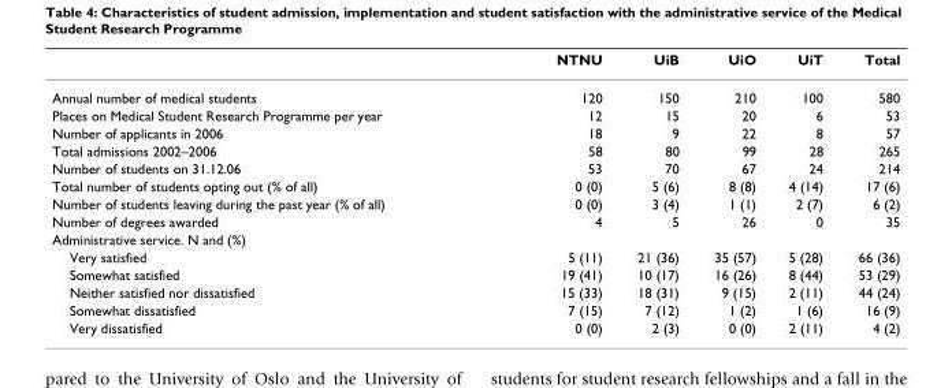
<table><thead><tr><td></td><td>NTNU</td><td>UiB</td><td>UiO</td><td>UiT</td><td>Total</td></tr></thead><tbody><tr><td>Annual number of medical students</td><td>120</td><td>150</td><td>210</td><td>100</td><td>580</td></tr><tr><td>Places on Medical Student Research Programme per year</td><td>12</td><td>15</td><td>20</td><td>6</td><td>53</td></tr><tr><td>Number of applicants in 2006</td><td>18</td><td>9</td><td>22</td><td>8</td><td>57</td></tr><tr><td>Total admissions 2002–2006</td><td>58</td><td>80</td><td>99</td><td>28</td><td>265</td></tr><tr><td>Number of students on 31.12.06</td><td>53</td><td>70</td><td>67</td><td>24</td><td>214</td></tr><tr><td>Total number of students opting out (% of all)</td><td>0 (0)</td><td>5 (6)</td><td>8 (8)</td><td>4 (14)</td><td>17 (6)</td></tr><tr><td>Number of students leaving during the past year (% of all)</td><td>0 (0)</td><td>3 (4)</td><td>1 (1)</td><td>2 (7)</td><td>6 (2)</td></tr><tr><td>Number of degrees awarded</td><td>4</td><td>5</td><td>26</td><td>0</td><td>35</td></tr><tr><td colspan="6">Administrative service. N and (%)</td></tr><tr><td>Very satisfied</td><td>5 (11)</td><td>21 (36)</td><td>35 (57)</td><td>5 (28)</td><td>66 (36)</td></tr><tr><td>Somewhat satisfied</td><td>19 (41)</td><td>10 (17)</td><td>16 (26)</td><td>8 (44)</td><td>53 (29)</td></tr><tr><td>Neither satisfied nor dissatisfied</td><td>15 (33)</td><td>18 (31)</td><td>9 (15)</td><td>2 (11)</td><td>44 (24)</td></tr><tr><td>Somewhat dissatisfied</td><td>7 (15)</td><td>7 (12)</td><td>1 (2)</td><td>1 (6)</td><td>16 (9)</td></tr><tr><td>Very dissatisfied</td><td>0 (0)</td><td>2 (3)</td><td>0 (0)</td><td>2 (11)</td><td>4 (2)</td></tr></tbody></table>